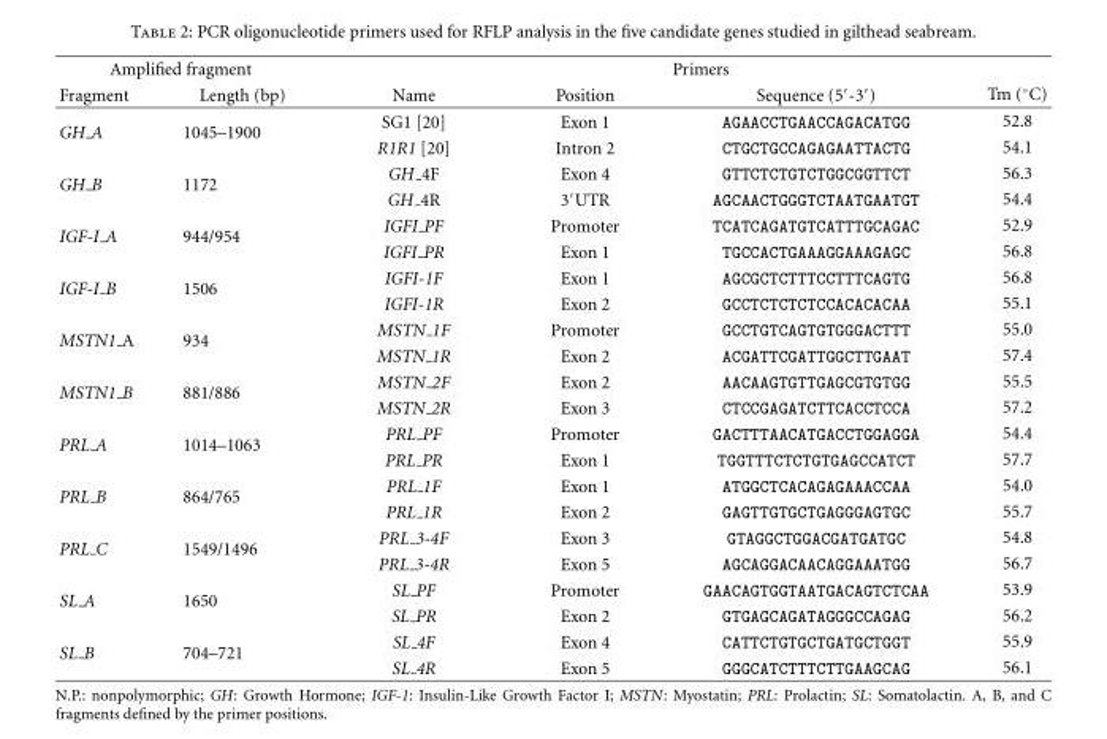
<table><thead><tr><td colspan="2">Amplified fragment</td><td colspan="4">Primers</td></tr><tr><td>Fragment</td><td>Length (bp)</td><td>Name</td><td>Position</td><td>Sequence (5′-3′)</td><td>Tm (◦C)</td></tr></thead><tbody><tr><td rowspan="2">GH A</td><td rowspan="2">1045–1900</td><td>SG1 [20]</td><td>Exon 1</td><td>AGAACCTGAACCAGACATGG</td><td>52.8</td></tr><tr><td>R1R1 [20]</td><td>Intron 2</td><td>CTGCTGCCAGAGAATTACTG</td><td>54.1</td></tr><tr><td rowspan="2">GH B</td><td rowspan="2">1172</td><td>GH 4F</td><td>Exon 4</td><td>GTTCTCTGTCTGGCGGTTCT</td><td>56.3</td></tr><tr><td>GH 4R</td><td>3′UTR</td><td>AGCAACTGGGTCTAATGAATGT</td><td>54.4</td></tr><tr><td rowspan="2">IGF-I A</td><td rowspan="2">944/954</td><td>IGFI PF</td><td>Promoter</td><td>TCATCAGATGTCATTTGCAGAC</td><td>52.9</td></tr><tr><td>IGFI PR</td><td>Exon 1</td><td>TGCCACTGAAAGGAAAGAGC</td><td>56.8</td></tr><tr><td rowspan="2">IGF-I B</td><td rowspan="2">1506</td><td>IGFI-1F</td><td>Exon 1</td><td>AGCGCTCTTTCCTTTCAGTG</td><td>56.8</td></tr><tr><td>IGFI-1R</td><td>Exon 2</td><td>GCCTCTCTCTCCACACACAA</td><td>55.1</td></tr><tr><td rowspan="2">MSTN1 A</td><td rowspan="2">934</td><td>MSTN 1F</td><td>Promoter</td><td>GCCTGTCAGTGTGGGACTTT</td><td>55.0</td></tr><tr><td>MSTN 1R</td><td>Exon 2</td><td>ACGATTCGATTGGCTTGAAT</td><td>57.4</td></tr><tr><td rowspan="2">MSTN1 B</td><td rowspan="2">881/886</td><td>MSTN 2F</td><td>Exon 2</td><td>AACAAGTGTTGAGCGTGTGG</td><td>55.5</td></tr><tr><td>MSTN 2R</td><td>Exon 3</td><td>CTCCGAGATCTTCACCTCCA</td><td>57.2</td></tr><tr><td rowspan="2">PRL A</td><td rowspan="2">1014–1063</td><td>PRL PF</td><td>Promoter</td><td>GACTTTAACATGACCTGGAGGA</td><td>54.4</td></tr><tr><td>PRL PR</td><td>Exon 1</td><td>TGGTTTCTCTGTGAGCCATCT</td><td>57.7</td></tr><tr><td rowspan="2">PRL B</td><td rowspan="2">864/765</td><td>PRL 1F</td><td>Exon 1</td><td>ATGGCTCACAGAGAAACCAA</td><td>54.0</td></tr><tr><td>PRL 1R</td><td>Exon 2</td><td>GAGTTGTGCTGAGGGAGTGC</td><td>55.7</td></tr><tr><td rowspan="2">PRL C</td><td rowspan="2">1549/1496</td><td>PRL 3-4F</td><td>Exon 3</td><td>GTAGGCTGGACGATGATGC</td><td>54.8</td></tr><tr><td>PRL 3-4R</td><td>Exon 5</td><td>AGCAGGACAACAGGAAATGG</td><td>56.7</td></tr><tr><td rowspan="2">SL A</td><td rowspan="2">1650</td><td>SL PF</td><td>Promoter</td><td>GAACAGTGGTAATGACAGTCTCAA</td><td>53.9</td></tr><tr><td>SL PR</td><td>Exon 2</td><td>GTGAGCAGATAGGGCCAGAG</td><td>56.2</td></tr><tr><td rowspan="2">SL B</td><td rowspan="2">704–721</td><td>SL 4F</td><td>Exon 4</td><td>CATTCTGTGCTGATGCTGGT</td><td>55.9</td></tr><tr><td>SL 4R</td><td>Exon 5</td><td>GGGCATCTTTCTTGAAGCAG</td><td>56.1</td></tr></tbody></table>